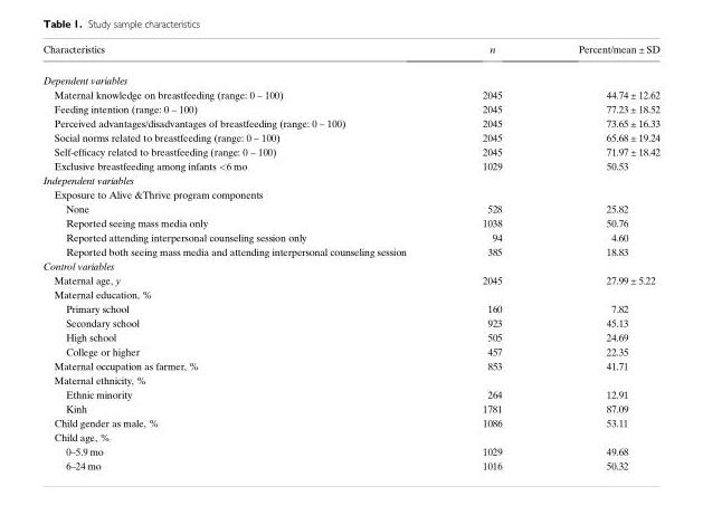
<table><thead><tr><td>Characteristics</td><td>n</td><td>Percent/mean ± SD</td></tr></thead><tbody><tr><td colspan="3">Dependent variables</td></tr><tr><td>Maternal knowledge on breastfeeding (range: 0 – 100)</td><td>2045</td><td>44.74 ± 12.62</td></tr><tr><td>Feeding intention (range: 0 – 100)</td><td>2045</td><td>77.23 ± 18.52</td></tr><tr><td>Perceived advantages/disadvantages of breastfeeding (range: 0 – 100)</td><td>2045</td><td>73.65 ± 16.33</td></tr><tr><td>Social norms related to breastfeeding (range: 0 – 100)</td><td>2045</td><td>65.68 ± 19.24</td></tr><tr><td>Self-efficacy related to breastfeeding (range: 0 – 100)</td><td>2045</td><td>71.97 ± 18.42</td></tr><tr><td>Exclusive breastfeeding among infants &lt;6 mo</td><td>1029</td><td>50.53</td></tr><tr><td colspan="3">Independent variables</td></tr><tr><td colspan="3">Exposure to Alive &amp;Thrive program components</td></tr><tr><td>None</td><td>528</td><td>25.82</td></tr><tr><td>Reported seeing mass media only</td><td>1038</td><td>50.76</td></tr><tr><td>Reported attending interpersonal counseling session only</td><td>94</td><td>4.60</td></tr><tr><td>Reported both seeing mass media and attending interpersonal counseling session</td><td>385</td><td>18.83</td></tr><tr><td colspan="3">Control variables</td></tr><tr><td>Maternal age, y</td><td>2045</td><td>27.99 ± 5.22</td></tr><tr><td colspan="3">Maternal education, %</td></tr><tr><td>Primary school</td><td>160</td><td>7.82</td></tr><tr><td>Secondary school</td><td>923</td><td>45.13</td></tr><tr><td>High school</td><td>505</td><td>24.69</td></tr><tr><td>College or higher</td><td>457</td><td>22.35</td></tr><tr><td>Maternal occupation as farmer, %</td><td>853</td><td>41.71</td></tr><tr><td colspan="3">Maternal ethnicity, %</td></tr><tr><td>Ethnic minority</td><td>264</td><td>12.91</td></tr><tr><td>Kinh</td><td>1781</td><td>87.09</td></tr><tr><td>Child gender as male, %</td><td>1086</td><td>53.11</td></tr><tr><td colspan="3">Child age, %</td></tr><tr><td>0–5.9 mo</td><td>1029</td><td>49.68</td></tr><tr><td>6–24 mo</td><td>1016</td><td>50.32</td></tr></tbody></table>